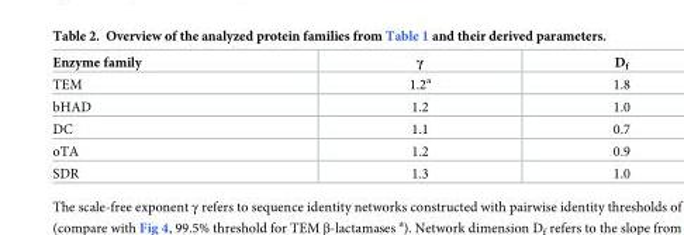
<table><thead><tr><td>Enzyme family</td><td>γ</td><td>D<sub>f</sub></td></tr></thead><tbody><tr><td>TEM</td><td>1.2<sup>a</sup></td><td>1.8</td></tr><tr><td>bHAD</td><td>1.2</td><td>1.0</td></tr><tr><td>DC</td><td>1.1</td><td>0.7</td></tr><tr><td>oTA</td><td>1.2</td><td>0.9</td></tr><tr><td>SDR</td><td>1.3</td><td>1.0</td></tr></tbody></table>